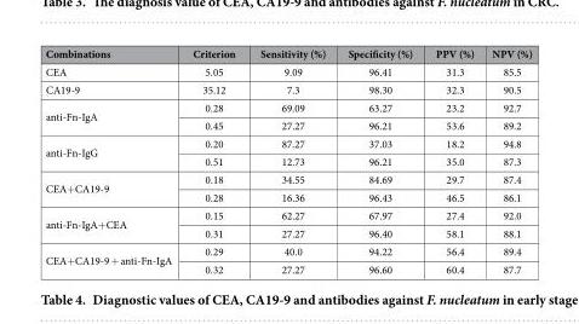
<table><thead><tr><td>Combinations</td><td>Criterion</td><td>Sensitivity (%)</td><td>Specificity (%)</td><td>PPV (%)</td><td>NPV (%)</td></tr></thead><tbody><tr><td>CEA</td><td>5.05</td><td>9.09</td><td>96.41</td><td>31.3</td><td>85.5</td></tr><tr><td>CA19-9</td><td>35.12</td><td>7.3</td><td>98.30</td><td>32.3</td><td>90.5</td></tr><tr><td rowspan="2">anti-Fn-IgA</td><td>0.28</td><td>69.09</td><td>63.27</td><td>23.2</td><td>92.7</td></tr><tr><td>0.45</td><td>27.27</td><td>96.21</td><td>53.6</td><td>89.2</td></tr><tr><td rowspan="2">anti-Fn-IgG</td><td>0.20</td><td>87.27</td><td>37.03</td><td>18.2</td><td>94.8</td></tr><tr><td>0.51</td><td>12.73</td><td>96.21</td><td>35.0</td><td>87.3</td></tr><tr><td rowspan="2">CEA+CA19-9</td><td>0.18</td><td>34.55</td><td>84.69</td><td>29.7</td><td>87.4</td></tr><tr><td>0.28</td><td>16.36</td><td>96.43</td><td>46.5</td><td>86.1</td></tr><tr><td rowspan="2">anti-Fn-IgA+CEA</td><td>0.15</td><td>62.27</td><td>67.97</td><td>27.4</td><td>92.0</td></tr><tr><td>0.31</td><td>27.27</td><td>96.40</td><td>58.1</td><td>88.1</td></tr><tr><td rowspan="2">CEA+CA19-9 + anti-Fn-IgA</td><td>0.29</td><td>40.0</td><td>94.22</td><td>56.4</td><td>89.4</td></tr><tr><td>0.32</td><td>27.27</td><td>96.60</td><td>60.4</td><td>87.7</td></tr></tbody></table>